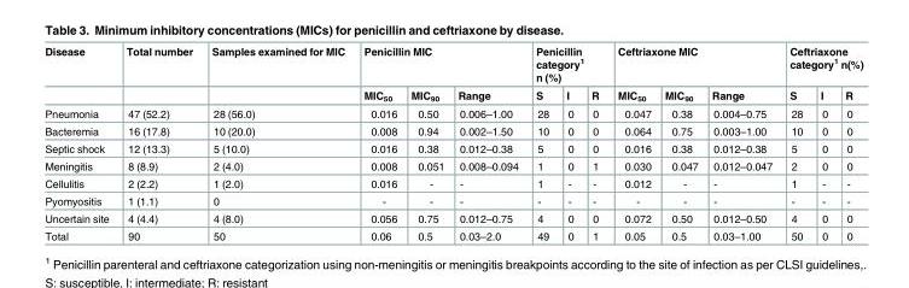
<table><thead><tr><td rowspan="2">Disease</td><td rowspan="2">Total number</td><td rowspan="2">Samples examined for MIC</td><td colspan="3">Penicillin MIC</td><td colspan="3">Penicillin category<sup>1</sup> n (%)</td><td colspan="3">Ceftriaxone MIC</td><td colspan="3">Ceftriaxone category<sup>1</sup> n(%)</td></tr><tr><td>MIC<sub>50</sub></td><td>MIC<sub>90</sub></td><td>Range</td><td>S</td><td>I</td><td>R</td><td>MIC<sub>50</sub></td><td>MIC<sub>90</sub></td><td>Range</td><td>S</td><td>I</td><td>R</td></tr></thead><tbody><tr><td>Pneumonia</td><td>47 (52.2)</td><td>28 (56.0)</td><td>0.016</td><td>0.50</td><td>0.006–1.00</td><td>28</td><td>0</td><td>0</td><td>0.047</td><td>0.38</td><td>0.004–0.75</td><td>28</td><td>0</td><td>0</td></tr><tr><td>Bacteremia</td><td>16 (17.8)</td><td>10 (20.0)</td><td>0.008</td><td>0.94</td><td>0.002–1.50</td><td>10</td><td>0</td><td>0</td><td>0.064</td><td>0.75</td><td>0.003–1.00</td><td>10</td><td>0</td><td>0</td></tr><tr><td>Septic shock</td><td>12 (13.3)</td><td>5 (10.0)</td><td>0.016</td><td>0.38</td><td>0.012–0.38</td><td>5</td><td>0</td><td>0</td><td>0.016</td><td>0.38</td><td>0.012–0.38</td><td>5</td><td>0</td><td>0</td></tr><tr><td>Meningitis</td><td>8 (8.9)</td><td>2 (4.0)</td><td>0.008</td><td>0.051</td><td>0.008–0.094</td><td>1</td><td>0</td><td>1</td><td>0.030</td><td>0.047</td><td>0.012–0.047</td><td>2</td><td>0</td><td>0</td></tr><tr><td>Cellulitis</td><td>2 (2.2)</td><td>1 (2.0)</td><td>0.016</td><td>-</td><td>-</td><td>1</td><td>-</td><td>-</td><td>0.012</td><td>-</td><td>-</td><td>1</td><td>-</td><td>-</td></tr><tr><td>Pyomyositis</td><td>1 (1.1)</td><td>0</td><td>-</td><td>-</td><td>-</td><td>-</td><td>-</td><td>-</td><td>-</td><td>-</td><td>-</td><td>-</td><td>-</td><td>-</td></tr><tr><td>Uncertain site</td><td>4 (4.4)</td><td>4 (8.0)</td><td>0.056</td><td>0.75</td><td>0.012–0.75</td><td>4</td><td>0</td><td>0</td><td>0.072</td><td>0.50</td><td>0.012–0.50</td><td>4</td><td>0</td><td>0</td></tr><tr><td>Total</td><td>90</td><td>50</td><td>0.06</td><td>0.5</td><td>0.03–2.0</td><td>49</td><td>0</td><td>1</td><td>0.05</td><td>0.5</td><td>0.03–1.00</td><td>50</td><td>0</td><td>0</td></tr></tbody></table>